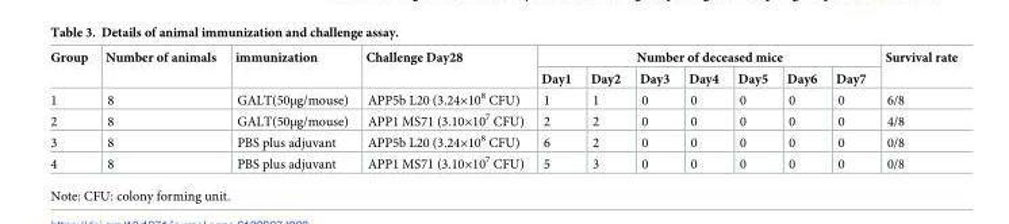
<table><thead><tr><td rowspan="2">Group</td><td rowspan="2">Number of animals</td><td rowspan="2">immunization</td><td rowspan="2">Challenge Day28</td><td colspan="7">Number of deceased mice</td><td rowspan="2">Survival rate</td></tr><tr><td>Day1</td><td>Day2</td><td>Day3</td><td>Day4</td><td>Day5</td><td>Day6</td><td>Day7</td></tr></thead><tbody><tr><td>1</td><td>8</td><td>GALT(50μg/mouse)</td><td>APP5b L20 (3.24×10<sup>8</sup> CFU)</td><td>1</td><td>1</td><td>0</td><td>0</td><td>0</td><td>0</td><td>0</td><td>6/8</td></tr><tr><td>2</td><td>8</td><td>GALT(50μg/mouse)</td><td>APP1 MS71 (3.10×10<sup>7</sup> CFU)</td><td>2</td><td>2</td><td>0</td><td>0</td><td>0</td><td>0</td><td>0</td><td>4/8</td></tr><tr><td>3</td><td>8</td><td>PBS plus adjuvant</td><td>APP5b L20 (3.24×10<sup>8</sup> CFU)</td><td>6</td><td>2</td><td>0</td><td>0</td><td>0</td><td>0</td><td>0</td><td>0/8</td></tr><tr><td>4</td><td>8</td><td>PBS plus adjuvant</td><td>APP1 MS71 (3.10×10<sup>7</sup> CFU)</td><td>5</td><td>3</td><td>0</td><td>0</td><td>0</td><td>0</td><td>0</td><td>0/8</td></tr></tbody></table>